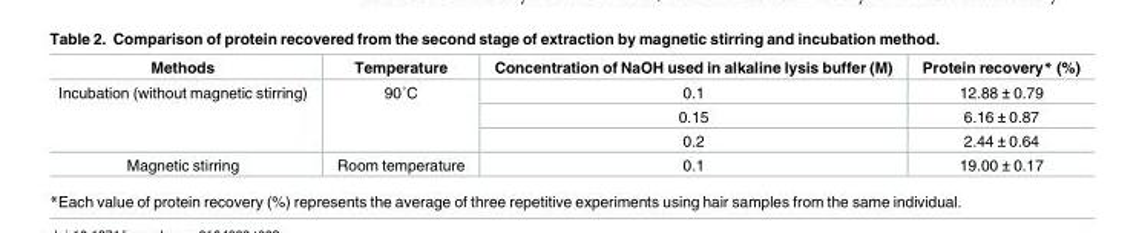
<table><thead><tr><td>Methods</td><td>Temperature</td><td>Concentration of NaOH used in alkaline lysis buffer (M)</td><td>Protein recovery* (%)</td></tr></thead><tbody><tr><td rowspan="3">Incubation (without magnetic stirring)</td><td rowspan="3">90˚C</td><td>0.1</td><td>12.88 ± 0.79</td></tr><tr><td>0.15</td><td>6.16 ± 0.87</td></tr><tr><td>0.2</td><td>2.44 ± 0.64</td></tr><tr><td>Magnetic stirring</td><td>Room temperature</td><td>0.1</td><td>19.00 ± 0.17</td></tr></tbody></table>